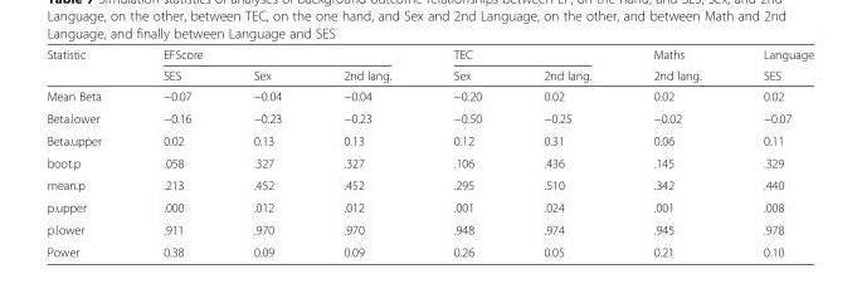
<table><thead><tr><td rowspan="2">Statistic</td><td colspan="3">EFScore</td><td colspan="2">TEC</td><td rowspan="2">Maths 2nd lang.</td><td rowspan="2">Language SES</td></tr><tr><td>SES</td><td>Sex</td><td>2nd lang.</td><td>Sex</td><td>2nd lang.</td></tr></thead><tbody><tr><td>Mean Beta</td><td>−0.07</td><td>−0.04</td><td>−0.04</td><td>−0.20</td><td>0.02</td><td>0.02</td><td>0.02</td></tr><tr><td>Beta.lower</td><td>−0.16</td><td>−0.23</td><td>−0.23</td><td>−0.50</td><td>−0.25</td><td>−0.02</td><td>−0.07</td></tr><tr><td>Beta.upper</td><td>0.02</td><td>0.13</td><td>0.13</td><td>0.12</td><td>0.31</td><td>0.06</td><td>0.11</td></tr><tr><td>boot.p</td><td>.058</td><td>.327</td><td>.327</td><td>.106</td><td>.436</td><td>.145</td><td>.329</td></tr><tr><td>mean.p</td><td>.213</td><td>.452</td><td>.452</td><td>.295</td><td>.510</td><td>.342</td><td>.440</td></tr><tr><td>p.upper</td><td>.000</td><td>.012</td><td>.012</td><td>.001</td><td>.024</td><td>.001</td><td>.008</td></tr><tr><td>p.lower</td><td>.911</td><td>.970</td><td>.970</td><td>.948</td><td>.974</td><td>.945</td><td>.978</td></tr><tr><td>Power</td><td>0.38</td><td>0.09</td><td>0.09</td><td>0.26</td><td>0.05</td><td>0.21</td><td>0.10</td></tr></tbody></table>